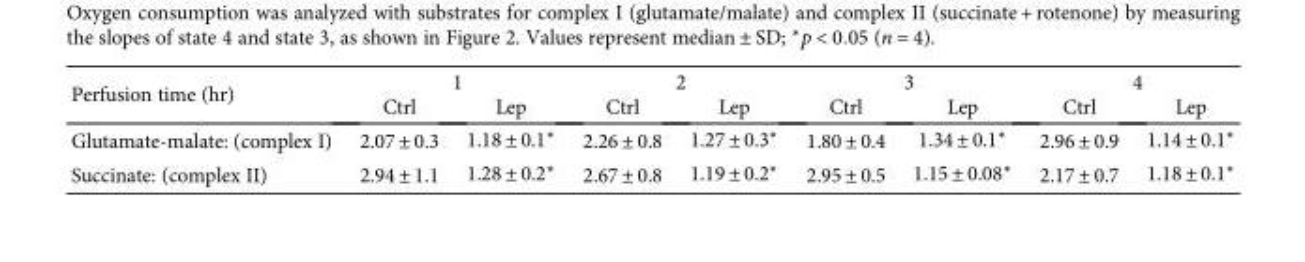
<table><thead><tr><td rowspan="2">Perfusion time (hr)</td><td colspan="2">1</td><td colspan="2">2</td><td colspan="2">3</td><td colspan="2">4</td></tr><tr><td>Ctrl</td><td>Lep</td><td>Ctrl</td><td>Lep</td><td>Ctrl</td><td>Lep</td><td>Ctrl</td><td>Lep</td></tr></thead><tbody><tr><td>Glutamate-malate: (complex I)</td><td>2.07 ± 0.3</td><td>1.18 ± 0.1∗</td><td>2.26 ± 0.8</td><td>1.27 ± 0.3∗</td><td>1.80 ± 0.4</td><td>1.34 ± 0.1∗</td><td>2.96 ± 0.9</td><td>1.14 ± 0.1∗</td></tr><tr><td>Succinate: (complex II)</td><td>2.94 ± 1.1</td><td>1.28 ± 0.2∗</td><td>2.67 ± 0.8</td><td>1.19 ± 0.2∗</td><td>2.95 ± 0.5</td><td>1.15 ± 0.08∗</td><td>2.17 ± 0.7</td><td>1.18 ± 0.1∗</td></tr></tbody></table>